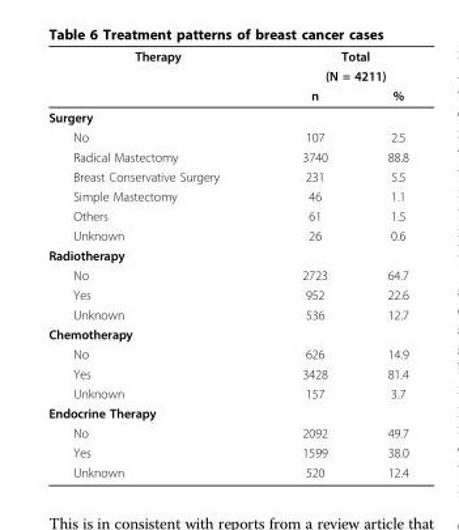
<table><thead><tr><td rowspan="3">Therapy</td><td rowspan="2" colspan="2">Total (N = 4211)</td></tr><tr></tr><tr><td>n</td><td>%</td></tr></thead><tbody><tr><td colspan="3">Surgery</td></tr><tr><td>No</td><td>107</td><td>2.5</td></tr><tr><td>Radical Mastectomy</td><td>3740</td><td>88.8</td></tr><tr><td>Breast Conservative Surgery</td><td>231</td><td>5.5</td></tr><tr><td>Simple Mastectomy</td><td>46</td><td>1.1</td></tr><tr><td>Others</td><td>61</td><td>1.5</td></tr><tr><td>Unknown</td><td>26</td><td>0.6</td></tr><tr><td colspan="3">Radiotherapy</td></tr><tr><td>No</td><td>2723</td><td>64.7</td></tr><tr><td>Yes</td><td>952</td><td>22.6</td></tr><tr><td>Unknown</td><td>536</td><td>12.7</td></tr><tr><td colspan="3">Chemotherapy</td></tr><tr><td>No</td><td>626</td><td>14.9</td></tr><tr><td>Yes</td><td>3428</td><td>81.4</td></tr><tr><td>Unknown</td><td>157</td><td>3.7</td></tr><tr><td colspan="3">Endocrine Therapy</td></tr><tr><td>No</td><td>2092</td><td>49.7</td></tr><tr><td>Yes</td><td>1599</td><td>38.0</td></tr><tr><td>Unknown</td><td>520</td><td>12.4</td></tr></tbody></table>